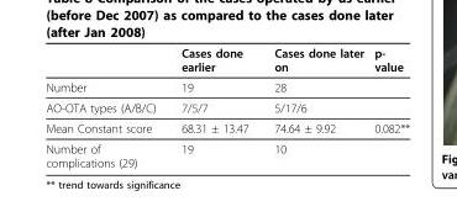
<table><thead><tr><td></td><td>Cases done earlier</td><td>Cases done later on</td><td>p- value</td></tr></thead><tbody><tr><td>Number</td><td>19</td><td>28</td><td></td></tr><tr><td>AO-OTA types (A/B/C)</td><td>7/5/7</td><td>5/17/6</td><td></td></tr><tr><td>Mean Constant score</td><td>68.31 ± 13.47</td><td>74.64 ± 9.92</td><td>0.082**</td></tr><tr><td>Number of complications (29)</td><td>19</td><td>10</td><td></td></tr></tbody></table>